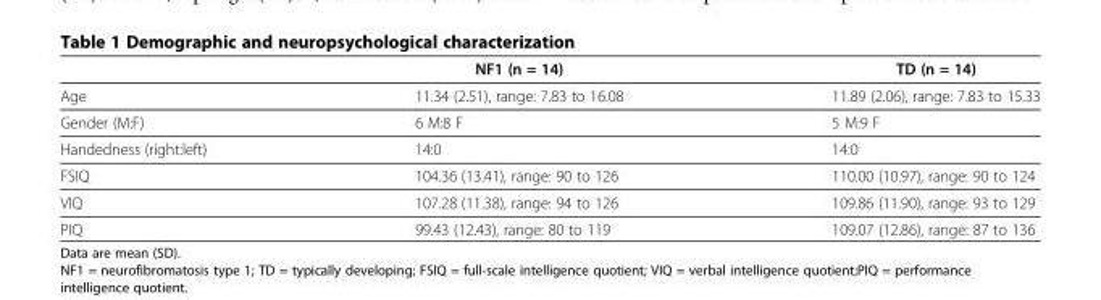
<table><thead><tr><td></td><td>NF1 (n = 14)</td><td>TD (n = 14)</td></tr></thead><tbody><tr><td>Age</td><td>11.34 (2.51), range: 7.83 to 16.08</td><td>11.89 (2.06), range: 7.83 to 15.33</td></tr><tr><td>Gender (M:F)</td><td>6 M:8 F</td><td>5 M:9 F</td></tr><tr><td>Handedness (right:left)</td><td>14:0</td><td>14:0</td></tr><tr><td>FSIQ</td><td>104.36 (13.41), range: 90 to 126</td><td>110.00 (10.97), range: 90 to 124</td></tr><tr><td>VIQ</td><td>107.28 (11.38), range: 94 to 126</td><td>109.86 (11.90), range: 93 to 129</td></tr><tr><td>PIQ</td><td>99.43 (12.43), range: 80 to 119</td><td>109.07 (12.86), range: 87 to 136</td></tr></tbody></table>